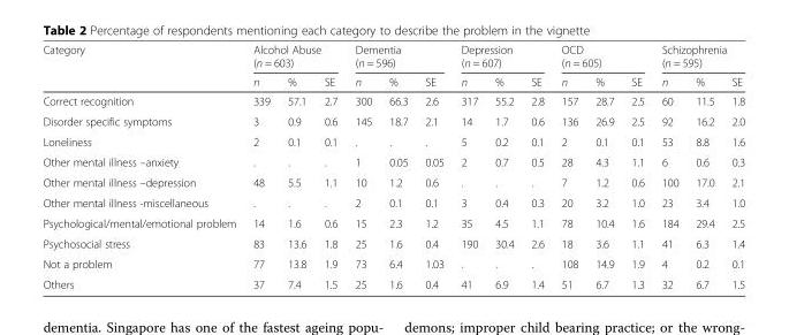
<table><thead><tr><td rowspan="2">Category</td><td colspan="3">Alcohol Abuse (n = 603)</td><td colspan="3">Dementia (n = 596)</td><td colspan="3">Depression (n = 607)</td><td colspan="3">OCD (n = 605)</td><td colspan="3">Schizophrenia (n = 595)</td></tr><tr><td>n</td><td>%</td><td>SE</td><td>n</td><td>%</td><td>SE</td><td>n</td><td>%</td><td>SE</td><td>n</td><td>%</td><td>SE</td><td>n</td><td>%</td><td>SE</td></tr></thead><tbody><tr><td>Correct recognition</td><td>339</td><td>57.1</td><td>2.7</td><td>300</td><td>66.3</td><td>2.6</td><td>317</td><td>55.2</td><td>2.8</td><td>157</td><td>28.7</td><td>2.5</td><td>60</td><td>11.5</td><td>1.8</td></tr><tr><td>Disorder specific symptoms</td><td>3</td><td>0.9</td><td>0.6</td><td>145</td><td>18.7</td><td>2.1</td><td>14</td><td>1.7</td><td>0.6</td><td>136</td><td>26.9</td><td>2.5</td><td>92</td><td>16.2</td><td>2.0</td></tr><tr><td>Loneliness</td><td>2</td><td>0.1</td><td>0.1</td><td>.</td><td>.</td><td>.</td><td>5</td><td>0.2</td><td>0.1</td><td>2</td><td>0.1</td><td>0.1</td><td>53</td><td>8.8</td><td>1.6</td></tr><tr><td>Other mental illness –anxiety</td><td>.</td><td>.</td><td>.</td><td>1</td><td>0.05</td><td>0.05</td><td>2</td><td>0.7</td><td>0.5</td><td>28</td><td>4.3</td><td>1.1</td><td>6</td><td>0.6</td><td>0.3</td></tr><tr><td>Other mental illness –depression</td><td>48</td><td>5.5</td><td>1.1</td><td>10</td><td>1.2</td><td>0.6</td><td>.</td><td>.</td><td>.</td><td>7</td><td>1.2</td><td>0.6</td><td>100</td><td>17.0</td><td>2.1</td></tr><tr><td>Other mental illness -miscellaneous</td><td>.</td><td>.</td><td>.</td><td>2</td><td>0.1</td><td>0.1</td><td>3</td><td>0.4</td><td>0.3</td><td>20</td><td>3.2</td><td>1.0</td><td>23</td><td>3.4</td><td>1.0</td></tr><tr><td>Psychological/mental/emotional problem</td><td>14</td><td>1.6</td><td>0.6</td><td>15</td><td>2.3</td><td>1.2</td><td>35</td><td>4.5</td><td>1.1</td><td>78</td><td>10.4</td><td>1.6</td><td>184</td><td>29.4</td><td>2.5</td></tr><tr><td>Psychosocial stress</td><td>83</td><td>13.6</td><td>1.8</td><td>25</td><td>1.6</td><td>0.4</td><td>190</td><td>30.4</td><td>2.6</td><td>18</td><td>3.6</td><td>1.1</td><td>41</td><td>6.3</td><td>1.4</td></tr><tr><td>Not a problem</td><td>77</td><td>13.8</td><td>1.9</td><td>73</td><td>6.4</td><td>1.03</td><td>.</td><td>.</td><td>.</td><td>108</td><td>14.9</td><td>1.9</td><td>4</td><td>0.2</td><td>0.1</td></tr><tr><td>Others</td><td>37</td><td>7.4</td><td>1.5</td><td>25</td><td>1.6</td><td>0.4</td><td>41</td><td>6.9</td><td>1.4</td><td>51</td><td>6.7</td><td>1.3</td><td>32</td><td>6.7</td><td>1.5</td></tr></tbody></table>